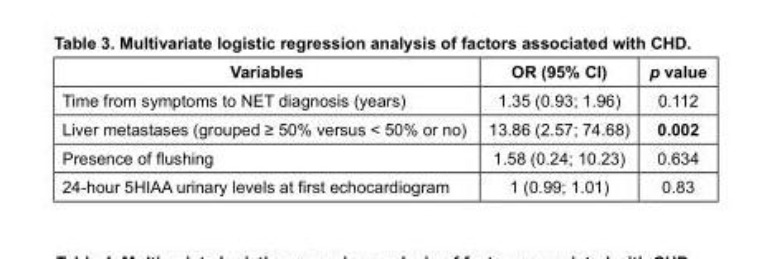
<table><thead><tr><td>Variables</td><td>OR (95% CI)</td><td>p value</td></tr></thead><tbody><tr><td>Time from symptoms to NET diagnosis (years)</td><td>1.35 (0.93; 1.96)</td><td>0.112</td></tr><tr><td>Liver metastases (grouped ≥ 50% versus &lt; 50% or no)</td><td>13.86 (2.57; 74.68)</td><td>0.002</td></tr><tr><td>Presence of flushing</td><td>1.58 (0.24; 10.23)</td><td>0.634</td></tr><tr><td>24-hour 5HIAA urinary levels at first echocardiogram</td><td>1 (0.99; 1.01)</td><td>0.83</td></tr></tbody></table>